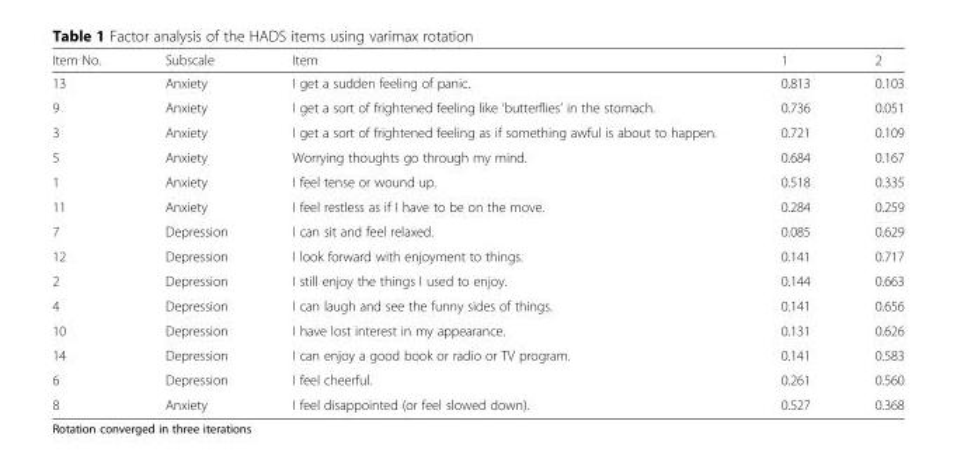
<table><thead><tr><td>Item No.</td><td>Subscale</td><td>Item</td><td>1</td><td>2</td></tr></thead><tbody><tr><td>13</td><td>Anxiety</td><td>I get a sudden feeling of panic.</td><td>0.813</td><td>0.103</td></tr><tr><td>9</td><td>Anxiety</td><td>I get a sort of frightened feeling like ‘butterflies’ in the stomach.</td><td>0.736</td><td>0.051</td></tr><tr><td>3</td><td>Anxiety</td><td>I get a sort of frightened feeling as if something awful is about to happen.</td><td>0.721</td><td>0.109</td></tr><tr><td>5</td><td>Anxiety</td><td>Worrying thoughts go through my mind.</td><td>0.684</td><td>0.167</td></tr><tr><td>1</td><td>Anxiety</td><td>I feel tense or wound up.</td><td>0.518</td><td>0.335</td></tr><tr><td>11</td><td>Anxiety</td><td>I feel restless as if I have to be on the move.</td><td>0.284</td><td>0.259</td></tr><tr><td>7</td><td>Depression</td><td>I can sit and feel relaxed.</td><td>0.085</td><td>0.629</td></tr><tr><td>12</td><td>Depression</td><td>I look forward with enjoyment to things.</td><td>0.141</td><td>0.717</td></tr><tr><td>2</td><td>Depression</td><td>I still enjoy the things I used to enjoy.</td><td>0.144</td><td>0.663</td></tr><tr><td>4</td><td>Depression</td><td>I can laugh and see the funny sides of things.</td><td>0.141</td><td>0.656</td></tr><tr><td>10</td><td>Depression</td><td>I have lost interest in my appearance.</td><td>0.131</td><td>0.626</td></tr><tr><td>14</td><td>Depression</td><td>I can enjoy a good book or radio or TV program.</td><td>0.141</td><td>0.583</td></tr><tr><td>6</td><td>Depression</td><td>I feel cheerful.</td><td>0.261</td><td>0.560</td></tr><tr><td>8</td><td>Anxiety</td><td>I feel disappointed (or feel slowed down).</td><td>0.527</td><td>0.368</td></tr></tbody></table>